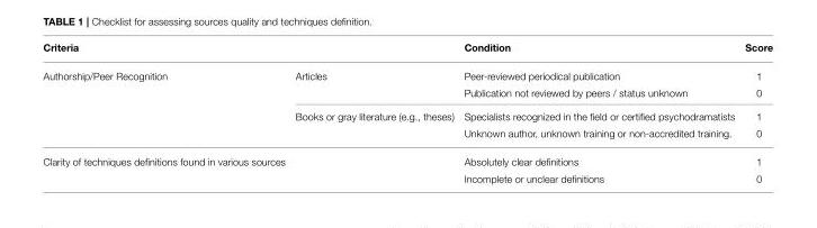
<table><thead><tr><td>Criteria</td><td></td><td>Condition</td><td>Score</td></tr></thead><tbody><tr><td rowspan="4">Authorship/Peer Recognition</td><td>Articles</td><td>Peer-reviewed periodical publication</td><td>1</td></tr><tr><td></td><td>Publication not reviewed by peers / status unknown</td><td>0</td></tr><tr><td>Books or gray literature (e.g., theses)</td><td>Specialists recognized in the field or certified psychodramatists</td><td>1</td></tr><tr><td></td><td>Unknown author, unknown training or non-accredited training.</td><td>0</td></tr><tr><td rowspan="2">Clarity of techniques definitions found in various sources</td><td></td><td>Absolutely clear definitions</td><td>1</td></tr><tr><td></td><td>Incomplete or unclear definitions</td><td>0</td></tr></tbody></table>